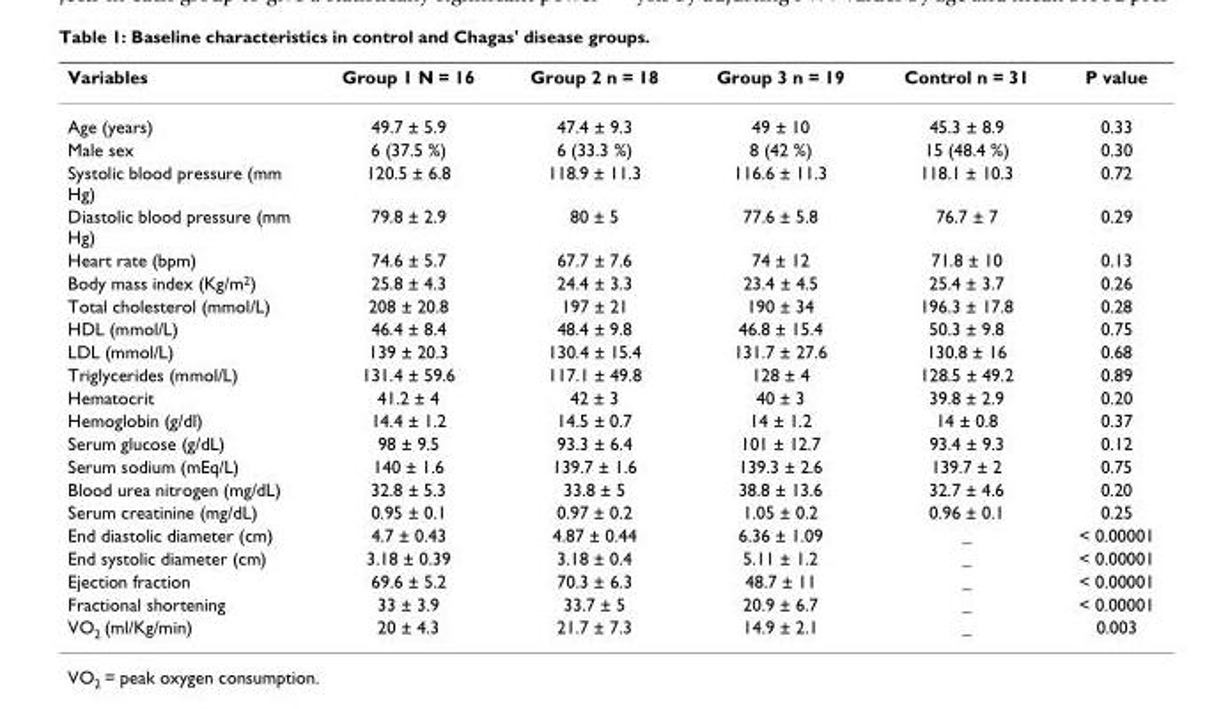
<table><thead><tr><td>Variables</td><td>Group 1 N = 16</td><td>Group 2 n = 18</td><td>Group 3 n = 19</td><td>Control n = 31</td><td>P value</td></tr></thead><tbody><tr><td>Age (years)</td><td>49.7 ± 5.9</td><td>47.4 ± 9.3</td><td>49 ± 10</td><td>45.3 ± 8.9</td><td>0.33</td></tr><tr><td>Male sex</td><td>6 (37.5 %)</td><td>6 (33.3 %)</td><td>8 (42 %)</td><td>15 (48.4 %)</td><td>0.30</td></tr><tr><td>Systolic blood pressure (mm Hg)</td><td>120.5 ± 6.8</td><td>118.9 ± 11.3</td><td>116.6 ± 11.3</td><td>118.1 ± 10.3</td><td>0.72</td></tr><tr><td>Diastolic blood pressure (mm Hg)</td><td>79.8 ± 2.9</td><td>80 ± 5</td><td>77.6 ± 5.8</td><td>76.7 ± 7</td><td>0.29</td></tr><tr><td>Heart rate (bpm)</td><td>74.6 ± 5.7</td><td>67.7 ± 7.6</td><td>74 ± 12</td><td>71.8 ± 10</td><td>0.13</td></tr><tr><td>Body mass index (Kg/m<sup>2</sup>)</td><td>25.8 ± 4.3</td><td>24.4 ± 3.3</td><td>23.4 ± 4.5</td><td>25.4 ± 3.7</td><td>0.26</td></tr><tr><td>Total cholesterol (mmol/L)</td><td>208 ± 20.8</td><td>197 ± 21</td><td>190 ± 34</td><td>196.3 ± 17.8</td><td>0.28</td></tr><tr><td>HDL (mmol/L)</td><td>46.4 ± 8.4</td><td>48.4 ± 9.8</td><td>46.8 ± 15.4</td><td>50.3 ± 9.8</td><td>0.75</td></tr><tr><td>LDL (mmol/L)</td><td>139 ± 20.3</td><td>130.4 ± 15.4</td><td>131.7 ± 27.6</td><td>130.8 ± 16</td><td>0.68</td></tr><tr><td>Triglycerides (mmol/L)</td><td>131.4 ± 59.6</td><td>117.1 ± 49.8</td><td>128 ± 4</td><td>128.5 ± 49.2</td><td>0.89</td></tr><tr><td>Hematocrit</td><td>41.2 ± 4</td><td>42 ± 3</td><td>40 ± 3</td><td>39.8 ± 2.9</td><td>0.20</td></tr><tr><td>Hemoglobin (g/dl)</td><td>14.4 ± 1.2</td><td>14.5 ± 0.7</td><td>14 ± 1.2</td><td>14 ± 0.8</td><td>0.37</td></tr><tr><td>Serum glucose (g/dL)</td><td>98 ± 9.5</td><td>93.3 ± 6.4</td><td>101 ± 12.7</td><td>93.4 ± 9.3</td><td>0.12</td></tr><tr><td>Serum sodium (mEq/L)</td><td>140 ± 1.6</td><td>139.7 ± 1.6</td><td>139.3 ± 2.6</td><td>139.7 ± 2</td><td>0.75</td></tr><tr><td>Blood urea nitrogen (mg/dL)</td><td>32.8 ± 5.3</td><td>33.8 ± 5</td><td>38.8 ± 13.6</td><td>32.7 ± 4.6</td><td>0.20</td></tr><tr><td>Serum creatinine (mg/dL)</td><td>0.95 ± 0.1</td><td>0.97 ± 0.2</td><td>1.05 ± 0.2</td><td>0.96 ± 0.1</td><td>0.25</td></tr><tr><td>End diastolic diameter (cm)</td><td>4.7 ± 0.43</td><td>4.87 ± 0.44</td><td>6.36 ± 1.09</td><td>_</td><td>&lt; 0.00001</td></tr><tr><td>End systolic diameter (cm)</td><td>3.18 ± 0.39</td><td>3.18 ± 0.4</td><td>5.11 ± 1.2</td><td>_</td><td>&lt; 0.00001</td></tr><tr><td>Ejection fraction</td><td>69.6 ± 5.2</td><td>70.3 ± 6.3</td><td>48.7 ± 11</td><td>_</td><td>&lt; 0.00001</td></tr><tr><td>Fractional shortening</td><td>33 ± 3.9</td><td>33.7 ± 5</td><td>20.9 ± 6.7</td><td>_</td><td>&lt; 0.00001</td></tr><tr><td>VO<sub>2</sub> (ml/Kg/min)</td><td>20 ± 4.3</td><td>21.7 ± 7.3</td><td>14.9 ± 2.1</td><td>_</td><td>0.003</td></tr></tbody></table>